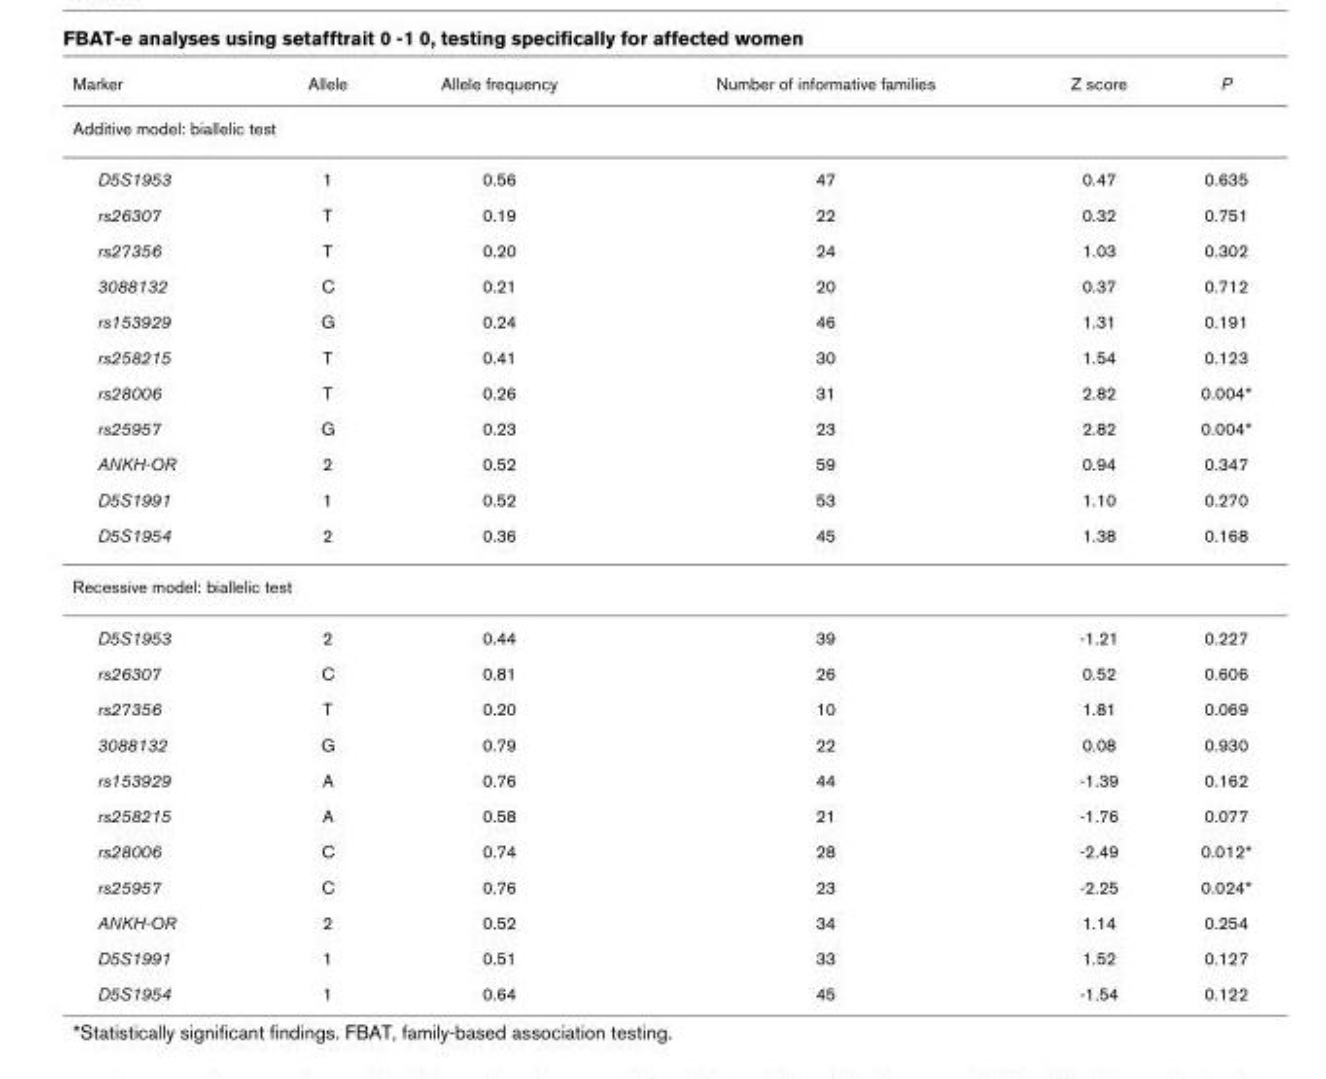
<table><thead><tr><td>Marker</td><td>Allele</td><td>Allele frequency</td><td>Number of informative families</td><td>Z score</td><td>P</td></tr></thead><tbody><tr><td colspan="6">Additive model: biallelic test</td></tr><tr><td>D5S1953</td><td>1</td><td>0.56</td><td>47</td><td>0.47</td><td>0.635</td></tr><tr><td>rs26307</td><td>T</td><td>0.19</td><td>22</td><td>0.32</td><td>0.751</td></tr><tr><td>rs27356</td><td>T</td><td>0.20</td><td>24</td><td>1.03</td><td>0.302</td></tr><tr><td>3088132</td><td>C</td><td>0.21</td><td>20</td><td>0.37</td><td>0.712</td></tr><tr><td>rs153929</td><td>G</td><td>0.24</td><td>46</td><td>1.31</td><td>0.191</td></tr><tr><td>rs258215</td><td>T</td><td>0.41</td><td>30</td><td>1.54</td><td>0.123</td></tr><tr><td>rs28006</td><td>T</td><td>0.26</td><td>31</td><td>2.82</td><td>0.004*</td></tr><tr><td>rs25957</td><td>G</td><td>0.23</td><td>23</td><td>2.82</td><td>0.004*</td></tr><tr><td>ANKH-OR</td><td>2</td><td>0.52</td><td>59</td><td>0.94</td><td>0.347</td></tr><tr><td>D5S1991</td><td>1</td><td>0.52</td><td>53</td><td>1.10</td><td>0.270</td></tr><tr><td>D5S1954</td><td>2</td><td>0.36</td><td>45</td><td>1.38</td><td>0.168</td></tr><tr><td colspan="6">Recessive model: biallelic test</td></tr><tr><td>D5S1953</td><td>2</td><td>0.44</td><td>39</td><td>-1.21</td><td>0.227</td></tr><tr><td>rs26307</td><td>C</td><td>0.81</td><td>26</td><td>0.52</td><td>0.606</td></tr><tr><td>rs27356</td><td>T</td><td>0.20</td><td>10</td><td>1.81</td><td>0.069</td></tr><tr><td>3088132</td><td>G</td><td>0.79</td><td>22</td><td>0.08</td><td>0.930</td></tr><tr><td>rs153929</td><td>A</td><td>0.76</td><td>44</td><td>-1.39</td><td>0.162</td></tr><tr><td>rs258215</td><td>A</td><td>0.58</td><td>21</td><td>-1.76</td><td>0.077</td></tr><tr><td>rs28006</td><td>C</td><td>0.74</td><td>28</td><td>-2.49</td><td>0.012*</td></tr><tr><td>rs25957</td><td>C</td><td>0.76</td><td>23</td><td>-2.25</td><td>0.024*</td></tr><tr><td>ANKH-OR</td><td>2</td><td>0.52</td><td>34</td><td>1.14</td><td>0.254</td></tr><tr><td>D5S1991</td><td>1</td><td>0.51</td><td>33</td><td>1.52</td><td>0.127</td></tr><tr><td>D5S1954</td><td>1</td><td>0.64</td><td>45</td><td>-1.54</td><td>0.122</td></tr></tbody></table>